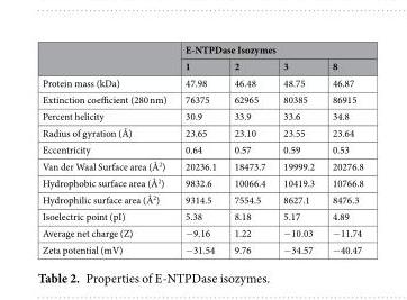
<table><thead><tr><td rowspan="2"></td><td colspan="4">E-NTPDase Isozymes</td></tr><tr><td>1</td><td>2</td><td>3</td><td>8</td></tr></thead><tbody><tr><td>Protein mass (kDa)</td><td>47.98</td><td>46.48</td><td>48.75</td><td>46.87</td></tr><tr><td>Extinction coefficient (280 nm)</td><td>76375</td><td>62965</td><td>80385</td><td>86915</td></tr><tr><td>Percent helicity</td><td>30.9</td><td>33.9</td><td>33.6</td><td>34.8</td></tr><tr><td>Radius of gyration (Å)</td><td>23.65</td><td>23.10</td><td>23.55</td><td>23.64</td></tr><tr><td>Eccentricity</td><td>0.64</td><td>0.57</td><td>0.59</td><td>0.53</td></tr><tr><td>Van der Waal Surface area (Å<sup>2</sup>)</td><td>20236.1</td><td>18473.7</td><td>19999.2</td><td>20276.8</td></tr><tr><td>Hydrophobic surface area (Å<sup>2</sup>)</td><td>9832.6</td><td>10066.4</td><td>10419.3</td><td>10766.8</td></tr><tr><td>Hydrophilic surface area (Å<sup>2</sup>)</td><td>9314.5</td><td>7554.5</td><td>8627.1</td><td>8476.3</td></tr><tr><td>Isoelectric point (pI)</td><td>5.38</td><td>8.18</td><td>5.17</td><td>4.89</td></tr><tr><td>Average net charge (Z)</td><td>−9.16</td><td>1.22</td><td>−10.03</td><td>−11.74</td></tr><tr><td>Zeta potential (mV)</td><td>−31.54</td><td>9.76</td><td>−34.57</td><td>−40.47</td></tr></tbody></table>